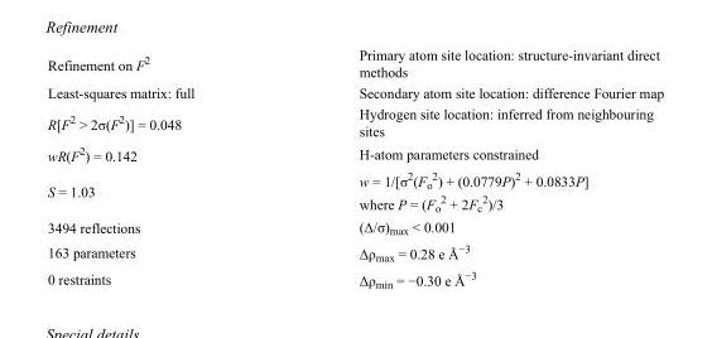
<table><tbody><tr><td>Refinement on F<sup>2</sup></td><td>Primary atom site location: structure-invariant direct methods</td></tr><tr><td>Least-squares matrix: full</td><td>Secondary atom site location: difference Fourier map</td></tr><tr><td>R[F<sup>2</sup> &gt; 2σ(F<sup>2</sup>)] = 0.048</td><td>Hydrogen site location: inferred from neighbouring sites</td></tr><tr><td>wR(F<sup>2</sup>) = 0.142</td><td>H-atom parameters constrained</td></tr><tr><td>S = 1.03</td><td>w = 1/[σ<sup>2</sup>(F<sub>o</sub> <sup>2</sup>) + (0.0779P)<sup>2</sup> + 0.0833P] where P = (F<sub>o</sub> <sup>2</sup> + 2F<sub>c</sub> <sup>2</sup>)/3</td></tr><tr><td>3494 reflections</td><td>(Δ/σ)<sub>max</sub> &lt; 0.001</td></tr><tr><td>163 parameters</td><td>Δρ<sub>max</sub> = 0.28 e Å<sup>−3</sup></td></tr><tr><td>0 restraints</td><td>Δρ<sub>min</sub> = −0.30 e Å<sup>−3</sup></td></tr></tbody></table>